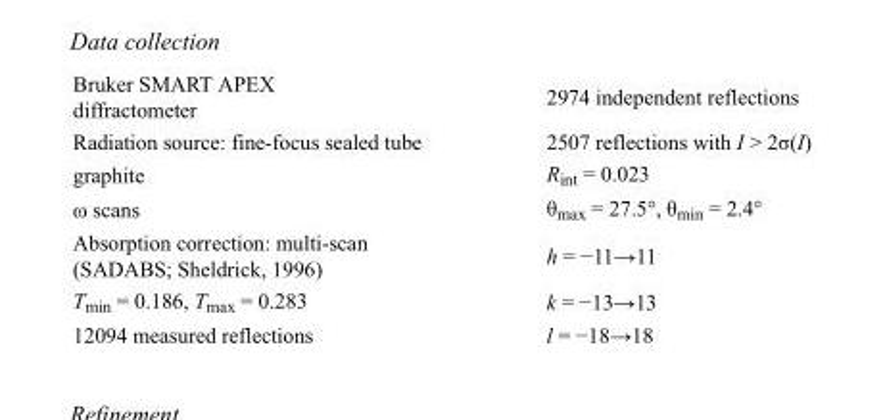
<table><tbody><tr><td>Bruker SMART APEX diffractometer</td><td>2974 independent reflections</td></tr><tr><td>Radiation source: fine-focus sealed tube</td><td>2507 reflections with I &gt; 2σ(I)</td></tr><tr><td>graphite</td><td>R<sub>int</sub> = 0.023</td></tr><tr><td>ω scans</td><td>θ<sub>max</sub> = 27.5°, θ<sub>min</sub> = 2.4°</td></tr><tr><td>Absorption correction: multi-scan (SADABS; Sheldrick, 1996)</td><td>h = −11→11</td></tr><tr><td>T<sub>min</sub> = 0.186, T<sub>max</sub> = 0.283</td><td>k = −13→13</td></tr><tr><td>12094 measured reflections</td><td>l = −18→18</td></tr></tbody></table>